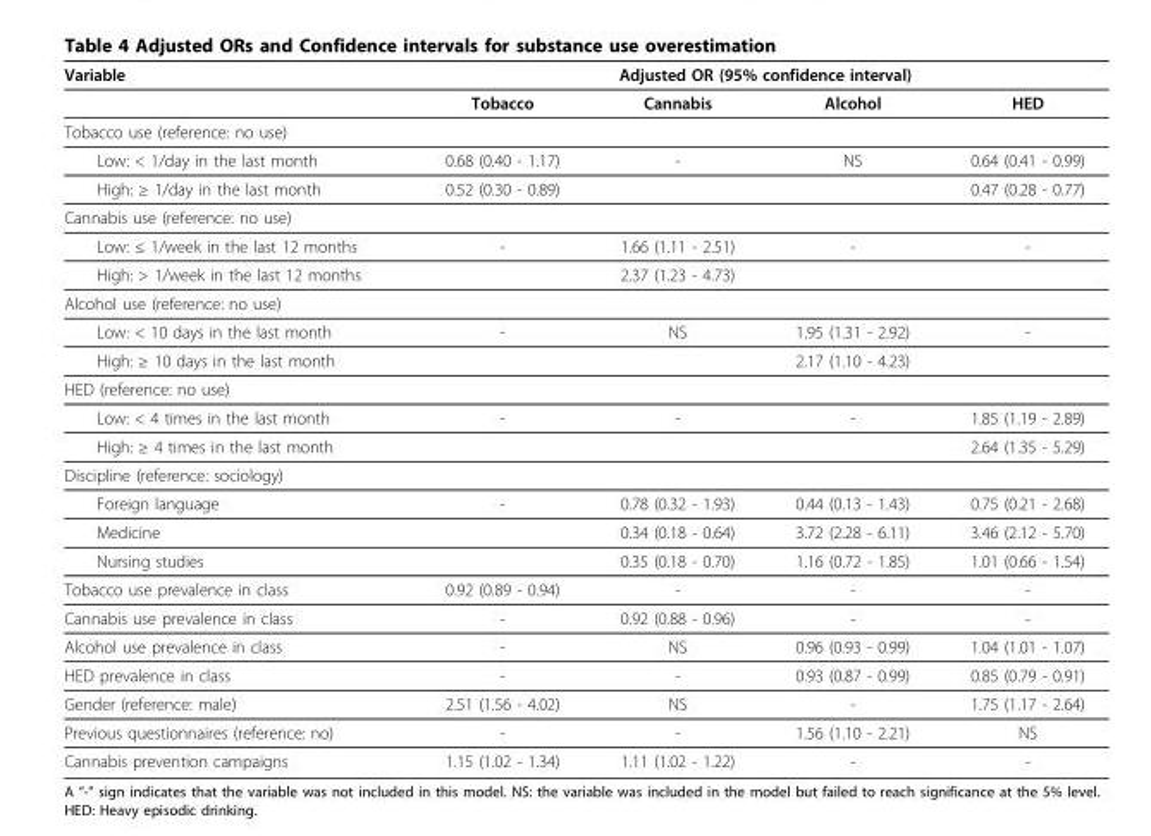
<table><thead><tr><td rowspan="2">Variable</td><td colspan="4">Adjusted OR (95% confidence interval)</td></tr><tr><td>Tobacco</td><td>Cannabis</td><td>Alcohol</td><td>HED</td></tr></thead><tbody><tr><td colspan="5">Tobacco use (reference: no use)</td></tr><tr><td>Low: &lt; 1/day in the last month</td><td>0.68 (0.40 - 1.17)</td><td>-</td><td>NS</td><td>0.64 (0.41 - 0.99)</td></tr><tr><td>High: ≥ 1/day in the last month</td><td>0.52 (0.30 - 0.89)</td><td></td><td></td><td>0.47 (0.28 - 0.77)</td></tr><tr><td colspan="5">Cannabis use (reference: no use)</td></tr><tr><td>Low: ≤ 1/week in the last 12 months</td><td>-</td><td>1.66 (1.11 - 2.51)</td><td>-</td><td>-</td></tr><tr><td>High: &gt; 1/week in the last 12 months</td><td></td><td>2.37 (1.23 - 4.73)</td><td></td><td></td></tr><tr><td colspan="5">Alcohol use (reference: no use)</td></tr><tr><td>Low: &lt; 10 days in the last month</td><td>-</td><td>NS</td><td>1.95 (1.31 - 2.92)</td><td>-</td></tr><tr><td>High: ≥ 10 days in the last month</td><td></td><td></td><td>2.17 (1.10 - 4.23)</td><td></td></tr><tr><td colspan="5">HED (reference: no use)</td></tr><tr><td>Low: &lt; 4 times in the last month</td><td>-</td><td>-</td><td>-</td><td>1.85 (1.19 - 2.89)</td></tr><tr><td>High: ≥ 4 times in the last month</td><td></td><td></td><td></td><td>2.64 (1.35 - 5.29)</td></tr><tr><td colspan="5">Discipline (reference: sociology)</td></tr><tr><td>Foreign language</td><td>-</td><td>0.78 (0.32 - 1.93)</td><td>0.44 (0.13 - 1.43)</td><td>0.75 (0.21 - 2.68)</td></tr><tr><td>Medicine</td><td></td><td>0.34 (0.18 - 0.64)</td><td>3.72 (2.28 - 6.11)</td><td>3.46 (2.12 - 5.70)</td></tr><tr><td>Nursing studies</td><td></td><td>0.35 (0.18 - 0.70)</td><td>1.16 (0.72 - 1.85)</td><td>1.01 (0.66 - 1.54)</td></tr><tr><td>Tobacco use prevalence in class</td><td>0.92 (0.89 - 0.94)</td><td>-</td><td>-</td><td>-</td></tr><tr><td>Cannabis use prevalence in class</td><td>-</td><td>0.92 (0.88 - 0.96)</td><td>-</td><td>-</td></tr><tr><td>Alcohol use prevalence in class</td><td>-</td><td>NS</td><td>0.96 (0.93 - 0.99)</td><td>1.04 (1.01 - 1.07)</td></tr><tr><td>HED prevalence in class</td><td>-</td><td>-</td><td>0.93 (0.87 - 0.99)</td><td>0.85 (0.79 - 0.91)</td></tr><tr><td>Gender (reference: male)</td><td>2.51 (1.56 - 4.02)</td><td>NS</td><td>-</td><td>1.75 (1.17 - 2.64)</td></tr><tr><td>Previous questionnaires (reference: no)</td><td>-</td><td>-</td><td>1.56 (1.10 - 2.21)</td><td>NS</td></tr><tr><td>Cannabis prevention campaigns</td><td>1.15 (1.02 - 1.34)</td><td>1.11 (1.02 - 1.22)</td><td>-</td><td>-</td></tr></tbody></table>